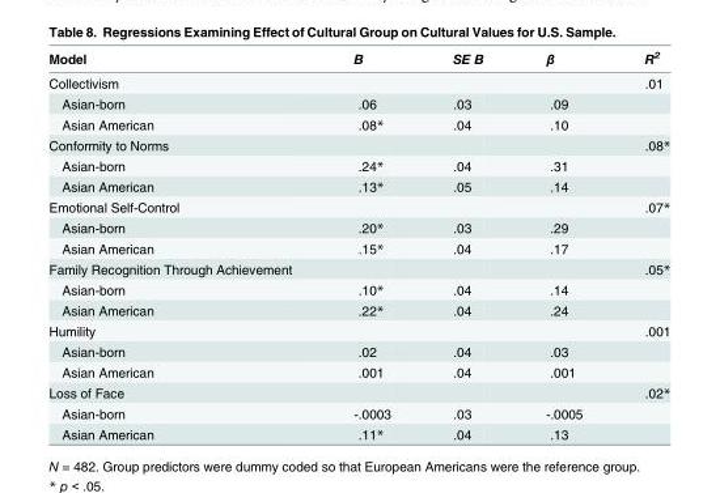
<table><thead><tr><td>Model</td><td>B</td><td>SE B</td><td>β</td><td>R<sup>2</sup></td></tr></thead><tbody><tr><td>Collectivism</td><td></td><td></td><td></td><td>.01</td></tr><tr><td>Asian-born</td><td>.06</td><td>.03</td><td>.09</td><td></td></tr><tr><td>Asian American</td><td>.08*</td><td>.04</td><td>.10</td><td></td></tr><tr><td>Conformity to Norms</td><td></td><td></td><td></td><td>.08*</td></tr><tr><td>Asian-born</td><td>.24*</td><td>.04</td><td>.31</td><td></td></tr><tr><td>Asian American</td><td>.13*</td><td>.05</td><td>.14</td><td></td></tr><tr><td>Emotional Self-Control</td><td></td><td></td><td></td><td>.07*</td></tr><tr><td>Asian-born</td><td>.20*</td><td>.03</td><td>.29</td><td></td></tr><tr><td>Asian American</td><td>.15*</td><td>.04</td><td>.17</td><td></td></tr><tr><td>Family Recognition Through Achievement</td><td></td><td></td><td></td><td>.05*</td></tr><tr><td>Asian-born</td><td>.10*</td><td>.04</td><td>.14</td><td></td></tr><tr><td>Asian American</td><td>.22*</td><td>.04</td><td>.24</td><td></td></tr><tr><td>Humility</td><td></td><td></td><td></td><td>.001</td></tr><tr><td>Asian-born</td><td>.02</td><td>.04</td><td>.03</td><td></td></tr><tr><td>Asian American</td><td>.001</td><td>.04</td><td>.001</td><td></td></tr><tr><td>Loss of Face</td><td></td><td></td><td></td><td>.02*</td></tr><tr><td>Asian-born</td><td>-.0003</td><td>.03</td><td>-.0005</td><td></td></tr><tr><td>Asian American</td><td>.11*</td><td>.04</td><td>.13</td><td></td></tr></tbody></table>